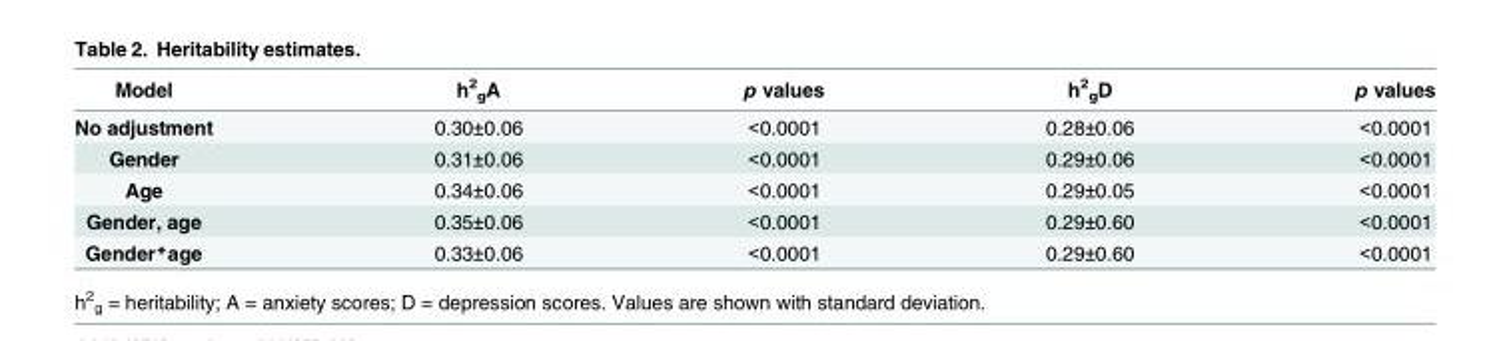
<table><thead><tr><td>Model</td><td>h<sup>2</sup> <sub>g</sub>A</td><td>p values</td><td>h<sup>2</sup> <sub>g</sub>D</td><td>p values</td></tr></thead><tbody><tr><td>No adjustment</td><td>0.30±0.06</td><td>&lt;0.0001</td><td>0.28±0.06</td><td>&lt;0.0001</td></tr><tr><td>Gender</td><td>0.31±0.06</td><td>&lt;0.0001</td><td>0.29±0.06</td><td>&lt;0.0001</td></tr><tr><td>Age</td><td>0.34±0.06</td><td>&lt;0.0001</td><td>0.29±0.05</td><td>&lt;0.0001</td></tr><tr><td>Gender, age</td><td>0.35±0.06</td><td>&lt;0.0001</td><td>0.29±0.60</td><td>&lt;0.0001</td></tr><tr><td>Gender*age</td><td>0.33±0.06</td><td>&lt;0.0001</td><td>0.29±0.60</td><td>&lt;0.0001</td></tr></tbody></table>